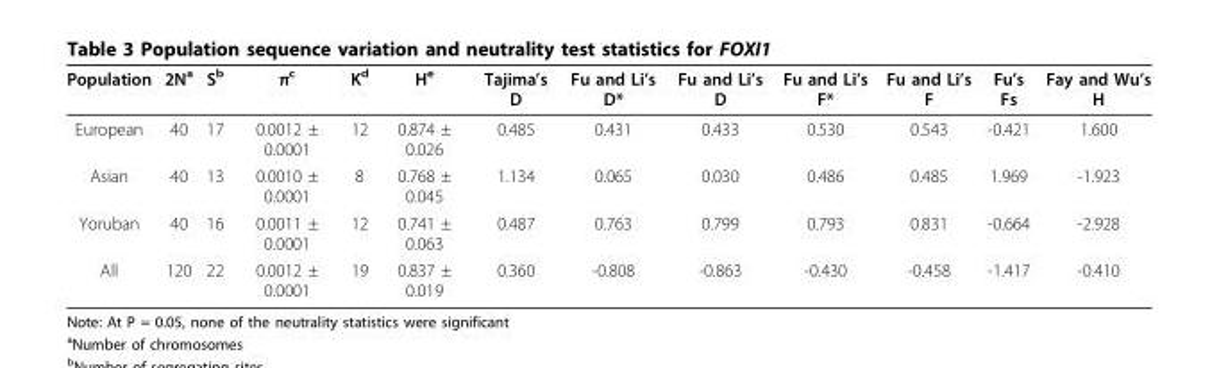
<table><thead><tr><td>Population</td><td>2N<sup>a</sup></td><td>S<sup>b</sup></td><td>π<sup>c</sup></td><td>K<sup>d</sup></td><td>H<sup>e</sup></td><td>Tajima’s D</td><td>Fu and Li’s D*</td><td>Fu and Li’s D</td><td>Fu and Li’s F*</td><td>Fu and Li’s F</td><td>Fu’s Fs</td><td>Fay and Wu’s H</td></tr></thead><tbody><tr><td>European</td><td>40</td><td>17</td><td>0.0012 ± 0.0001</td><td>12</td><td>0.874 ± 0.026</td><td>0.485</td><td>0.431</td><td>0.433</td><td>0.530</td><td>0.543</td><td>-0.421</td><td>1.600</td></tr><tr><td>Asian</td><td>40</td><td>13</td><td>0.0010 ± 0.0001</td><td>8</td><td>0.768 ± 0.045</td><td>1.134</td><td>0.065</td><td>0.030</td><td>0.486</td><td>0.485</td><td>1.969</td><td>-1.923</td></tr><tr><td>Yoruban</td><td>40</td><td>16</td><td>0.0011 ± 0.0001</td><td>12</td><td>0.741 ± 0.063</td><td>0.487</td><td>0.763</td><td>0.799</td><td>0.793</td><td>0.831</td><td>-0.664</td><td>-2.928</td></tr><tr><td>All</td><td>120</td><td>22</td><td>0.0012 ± 0.0001</td><td>19</td><td>0.837 ± 0.019</td><td>0.360</td><td>-0.808</td><td>-0.863</td><td>-0.430</td><td>-0.458</td><td>-1.417</td><td>-0.410</td></tr></tbody></table>